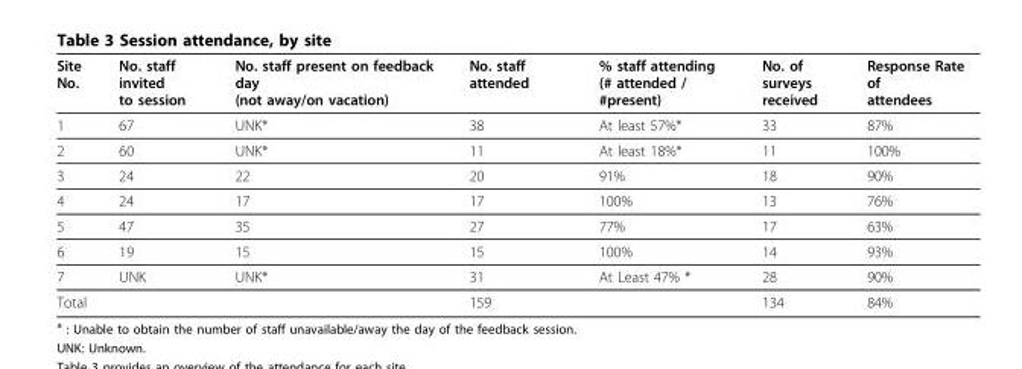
<table><thead><tr><td>Site No.</td><td>No. staff invited to session</td><td>No. staff present on feedback day (not away/on vacation)</td><td>No. staff attended</td><td>% staff attending (# attended / #present)</td><td>No. of surveys received</td><td>Response Rate of attendees</td></tr></thead><tbody><tr><td>1</td><td>67</td><td>UNK*</td><td>38</td><td>At least 57%*</td><td>33</td><td>87%</td></tr><tr><td>2</td><td>60</td><td>UNK*</td><td>11</td><td>At least 18%*</td><td>11</td><td>100%</td></tr><tr><td>3</td><td>24</td><td>22</td><td>20</td><td>91%</td><td>18</td><td>90%</td></tr><tr><td>4</td><td>24</td><td>17</td><td>17</td><td>100%</td><td>13</td><td>76%</td></tr><tr><td>5</td><td>47</td><td>35</td><td>27</td><td>77%</td><td>17</td><td>63%</td></tr><tr><td>6</td><td>19</td><td>15</td><td>15</td><td>100%</td><td>14</td><td>93%</td></tr><tr><td>7</td><td>UNK</td><td>UNK*</td><td>31</td><td>At Least 47% *</td><td>28</td><td>90%</td></tr><tr><td>Total</td><td></td><td></td><td>159</td><td></td><td>134</td><td>84%</td></tr></tbody></table>